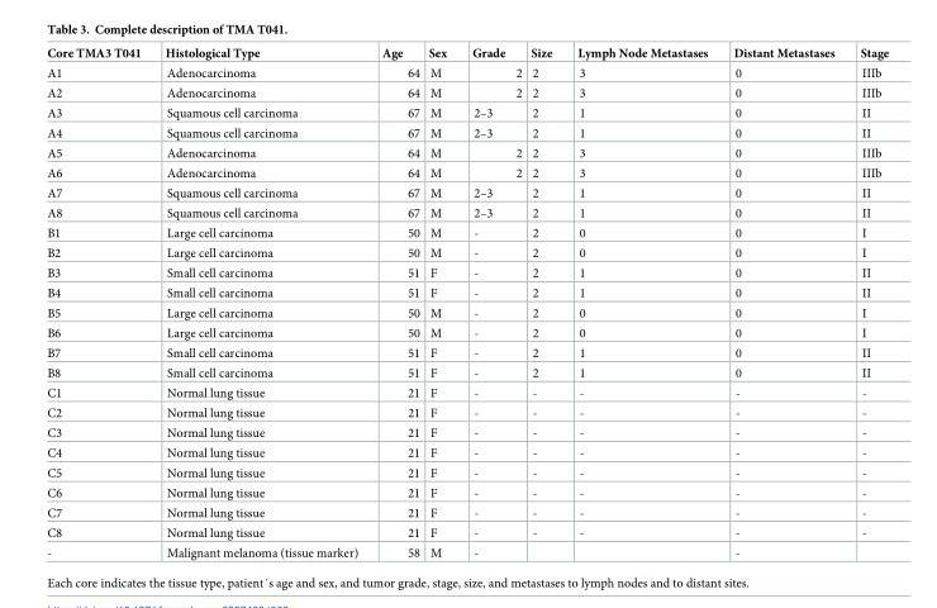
<table><thead><tr><td>Core TMA3 T041</td><td>Histological Type</td><td>Age</td><td>Sex</td><td>Grade</td><td>Size</td><td>Lymph Node Metastases</td><td>Distant Metastases</td><td>Stage</td></tr></thead><tbody><tr><td>A1</td><td>Adenocarcinoma</td><td>64</td><td>M</td><td>2</td><td>2</td><td>3</td><td>0</td><td>IIIb</td></tr><tr><td>A2</td><td>Adenocarcinoma</td><td>64</td><td>M</td><td>2</td><td>2</td><td>3</td><td>0</td><td>IIIb</td></tr><tr><td>A3</td><td>Squamous cell carcinoma</td><td>67</td><td>M</td><td>2–3</td><td>2</td><td>1</td><td>0</td><td>II</td></tr><tr><td>A4</td><td>Squamous cell carcinoma</td><td>67</td><td>M</td><td>2–3</td><td>2</td><td>1</td><td>0</td><td>II</td></tr><tr><td>A5</td><td>Adenocarcinoma</td><td>64</td><td>M</td><td>2</td><td>2</td><td>3</td><td>0</td><td>IIIb</td></tr><tr><td>A6</td><td>Adenocarcinoma</td><td>64</td><td>M</td><td>2</td><td>2</td><td>3</td><td>0</td><td>IIIb</td></tr><tr><td>A7</td><td>Squamous cell carcinoma</td><td>67</td><td>M</td><td>2–3</td><td>2</td><td>1</td><td>0</td><td>II</td></tr><tr><td>A8</td><td>Squamous cell carcinoma</td><td>67</td><td>M</td><td>2–3</td><td>2</td><td>1</td><td>0</td><td>II</td></tr><tr><td>B1</td><td>Large cell carcinoma</td><td>50</td><td>M</td><td>-</td><td>2</td><td>0</td><td>0</td><td>I</td></tr><tr><td>B2</td><td>Large cell carcinoma</td><td>50</td><td>M</td><td>-</td><td>2</td><td>0</td><td>0</td><td>I</td></tr><tr><td>B3</td><td>Small cell carcinoma</td><td>51</td><td>F</td><td>-</td><td>2</td><td>1</td><td>0</td><td>II</td></tr><tr><td>B4</td><td>Small cell carcinoma</td><td>51</td><td>F</td><td>-</td><td>2</td><td>1</td><td>0</td><td>II</td></tr><tr><td>B5</td><td>Large cell carcinoma</td><td>50</td><td>M</td><td>-</td><td>2</td><td>0</td><td>0</td><td>I</td></tr><tr><td>B6</td><td>Large cell carcinoma</td><td>50</td><td>M</td><td>-</td><td>2</td><td>0</td><td>0</td><td>I</td></tr><tr><td>B7</td><td>Small cell carcinoma</td><td>51</td><td>F</td><td>-</td><td>2</td><td>1</td><td>0</td><td>II</td></tr><tr><td>B8</td><td>Small cell carcinoma</td><td>51</td><td>F</td><td>-</td><td>2</td><td>1</td><td>0</td><td>II</td></tr><tr><td>C1</td><td>Normal lung tissue</td><td>21</td><td>F</td><td>-</td><td>-</td><td>-</td><td>-</td><td>-</td></tr><tr><td>C2</td><td>Normal lung tissue</td><td>21</td><td>F</td><td>-</td><td>-</td><td>-</td><td>-</td><td>-</td></tr><tr><td>C3</td><td>Normal lung tissue</td><td>21</td><td>F</td><td>-</td><td>-</td><td>-</td><td>-</td><td>-</td></tr><tr><td>C4</td><td>Normal lung tissue</td><td>21</td><td>F</td><td>-</td><td>-</td><td>-</td><td>-</td><td>-</td></tr><tr><td>C5</td><td>Normal lung tissue</td><td>21</td><td>F</td><td>-</td><td>-</td><td>-</td><td>-</td><td>-</td></tr><tr><td>C6</td><td>Normal lung tissue</td><td>21</td><td>F</td><td>-</td><td>-</td><td>-</td><td>-</td><td>-</td></tr><tr><td>C7</td><td>Normal lung tissue</td><td>21</td><td>F</td><td>-</td><td>-</td><td>-</td><td>-</td><td>-</td></tr><tr><td>C8</td><td>Normal lung tissue</td><td>21</td><td>F</td><td>-</td><td>-</td><td>-</td><td>-</td><td>-</td></tr><tr><td>-</td><td>Malignant melanoma (tissue marker)</td><td>58</td><td>M</td><td>-</td><td></td><td></td><td>-</td><td></td></tr></tbody></table>